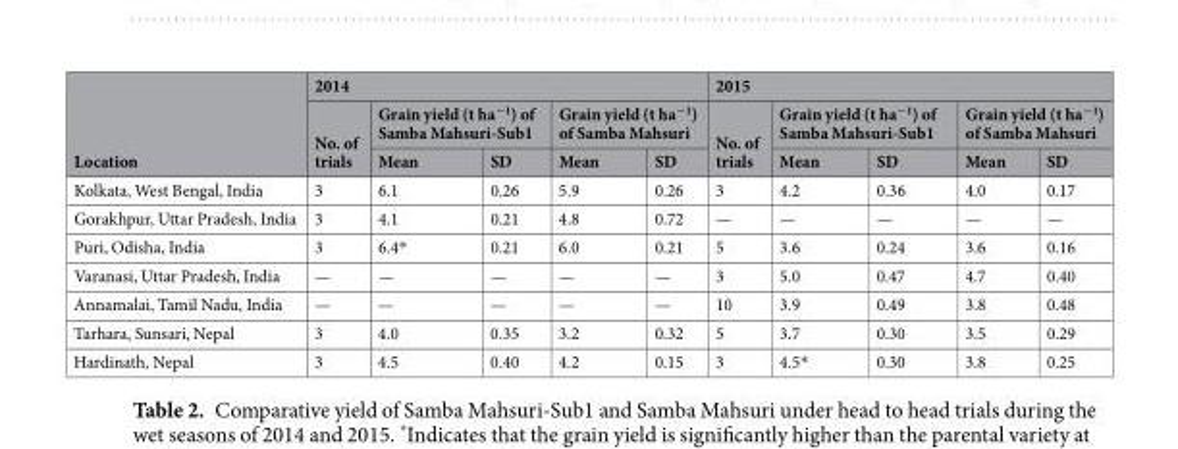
<table><thead><tr><td rowspan="3">Location</td><td colspan="5">2014</td><td colspan="5">2015</td></tr><tr><td rowspan="2">No. of trials</td><td colspan="2">Grain yield (t ha<sup>−1</sup>) of Samba Mahsuri-Sub1</td><td colspan="2">Grain yield (t ha<sup>−1</sup>) of Samba Mahsuri</td><td rowspan="2">No. of trials</td><td colspan="2">Grain yield (t ha<sup>−1</sup>) of Samba Mahsuri-Sub1</td><td colspan="2">Grain yield (t ha<sup>−1</sup>) of Samba Mahsuri</td></tr><tr><td>Mean</td><td>SD</td><td>Mean</td><td>SD</td><td>Mean</td><td>SD</td><td>Mean</td><td>SD</td></tr></thead><tbody><tr><td>Kolkata, West Bengal, India</td><td>3</td><td>6.1</td><td>0.26</td><td>5.9</td><td>0.26</td><td>3</td><td>4.2</td><td>0.36</td><td>4.0</td><td>0.17</td></tr><tr><td>Gorakhpur, Uttar Pradesh, India</td><td>3</td><td>4.1</td><td>0.21</td><td>4.8</td><td>0.72</td><td>—</td><td>—</td><td>—</td><td>—</td><td>—</td></tr><tr><td>Puri, Odisha, India</td><td>3</td><td>6.4*</td><td>0.21</td><td>6.0</td><td>0.21</td><td>5</td><td>3.6</td><td>0.24</td><td>3.6</td><td>0.16</td></tr><tr><td>Varanasi, Uttar Pradesh, India</td><td>—</td><td>—</td><td>—</td><td>—</td><td>—</td><td>3</td><td>5.0</td><td>0.47</td><td>4.7</td><td>0.40</td></tr><tr><td>Annamalai, Tamil Nadu, India</td><td>—</td><td>—</td><td>—</td><td>—</td><td>—</td><td>10</td><td>3.9</td><td>0.49</td><td>3.8</td><td>0.48</td></tr><tr><td>Tarhara, Sunsari, Nepal</td><td>3</td><td>4.0</td><td>0.35</td><td>3.2</td><td>0.32</td><td>5</td><td>3.7</td><td>0.30</td><td>3.5</td><td>0.29</td></tr><tr><td>Hardinath, Nepal</td><td>3</td><td>4.5</td><td>0.40</td><td>4.2</td><td>0.15</td><td>3</td><td>4.5*</td><td>0.30</td><td>3.8</td><td>0.25</td></tr></tbody></table>